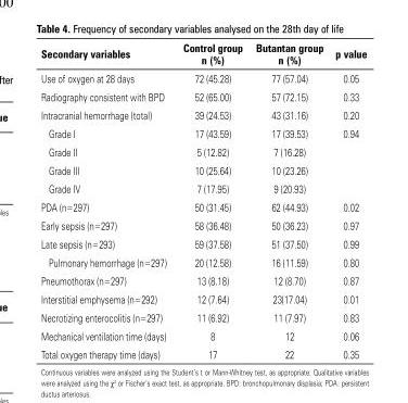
<table><thead><tr><td>Secondary variables</td><td>Control group n (%)</td><td>Butantan group n (%)</td><td>p value</td></tr></thead><tbody><tr><td>Use of oxygen at 28 days</td><td>72 (45.28)</td><td>77 (57.04)</td><td>0.05</td></tr><tr><td>Radiography consistent with BPD</td><td>52 (65.00)</td><td>57 (72.15)</td><td>0.33</td></tr><tr><td>Intracranial hemorrhage (total)</td><td>39 (24.53)</td><td>43 (31.16)</td><td>0.20</td></tr><tr><td>Grade I</td><td>17 (43.59)</td><td>17 (39.53)</td><td>0.94</td></tr><tr><td>Grade II</td><td>5 (12.82)</td><td>7 (16.28)</td><td></td></tr><tr><td>Grade III</td><td>10 (25.64)</td><td>10 (23.26)</td><td></td></tr><tr><td>Grade IV</td><td>7 (17.95)</td><td>9 (20.93)</td><td></td></tr><tr><td>PDA (n=297)</td><td>50 (31.45)</td><td>62 (44.93)</td><td>0.02</td></tr><tr><td>Early sepsis (n=297)</td><td>58 (36.48)</td><td>50 (36.23)</td><td>0.97</td></tr><tr><td>Late sepsis (n=293)</td><td>59 (37.58)</td><td>51 (37.50)</td><td>0.99</td></tr><tr><td>Pulmonary hemorrhage (n=297)</td><td>20 (12.58)</td><td>16 (11.59)</td><td>0.80</td></tr><tr><td>Pneumothorax (n=297)</td><td>13 (8.18)</td><td>12 (8.70)</td><td>0.87</td></tr><tr><td>Interstitial emphysema (n=292)</td><td>12 (7.64)</td><td>23(17.04)</td><td>0.01</td></tr><tr><td>Necrotizing enterocolitis (n=297)</td><td>11 (6.92)</td><td>11 (7.97)</td><td>0.83</td></tr><tr><td>Mechanical ventilation time (days)</td><td>8</td><td>12</td><td>0.06</td></tr><tr><td>Total oxygen therapy time (days)</td><td>17</td><td>22</td><td>0.35</td></tr></tbody></table>